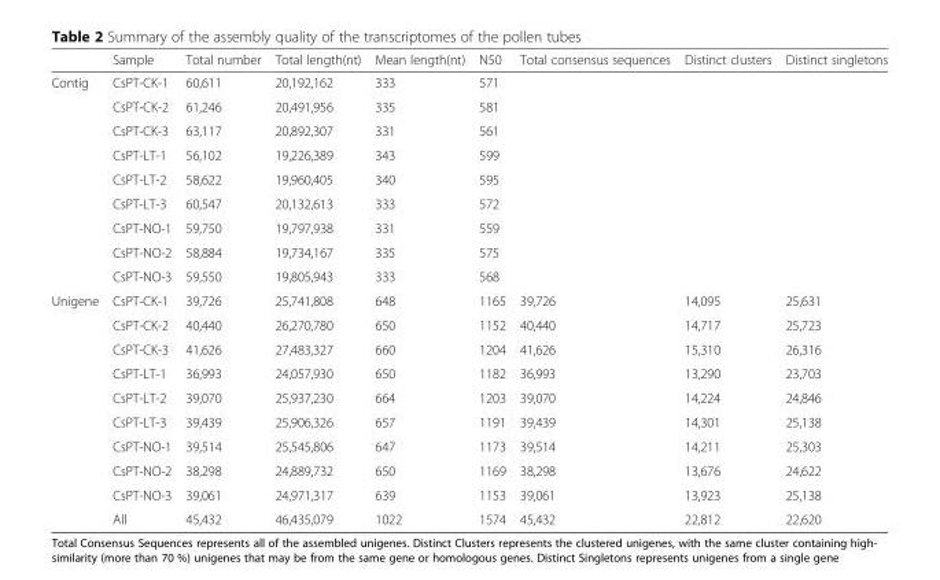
<table><thead><tr><td></td><td>Sample</td><td>Total number</td><td>Total length(nt)</td><td>Mean length(nt)</td><td>N50</td><td>Total consensus sequences</td><td>Distinct clusters</td><td>Distinct singletons</td></tr></thead><tbody><tr><td rowspan="9">Contig</td><td>CsPT-CK-1</td><td>60,611</td><td>20,192,162</td><td>333</td><td>571</td><td></td><td></td><td></td></tr><tr><td>CsPT-CK-2</td><td>61,246</td><td>20,491,956</td><td>335</td><td>581</td><td></td><td></td><td></td></tr><tr><td>CsPT-CK-3</td><td>63,117</td><td>20,892,307</td><td>331</td><td>561</td><td></td><td></td><td></td></tr><tr><td>CsPT-LT-1</td><td>56,102</td><td>19,226,389</td><td>343</td><td>599</td><td></td><td></td><td></td></tr><tr><td>CsPT-LT-2</td><td>58,622</td><td>19,960,405</td><td>340</td><td>595</td><td></td><td></td><td></td></tr><tr><td>CsPT-LT-3</td><td>60,547</td><td>20,132,613</td><td>333</td><td>572</td><td></td><td></td><td></td></tr><tr><td>CsPT-NO-1</td><td>59,750</td><td>19,797,938</td><td>331</td><td>559</td><td></td><td></td><td></td></tr><tr><td>CsPT-NO-2</td><td>58,884</td><td>19,734,167</td><td>335</td><td>575</td><td></td><td></td><td></td></tr><tr><td>CsPT-NO-3</td><td>59,550</td><td>19,805,943</td><td>333</td><td>568</td><td></td><td></td><td></td></tr><tr><td rowspan="10">Unigene</td><td>CsPT-CK-1</td><td>39,726</td><td>25,741,808</td><td>648</td><td>1165</td><td>39,726</td><td>14,095</td><td>25,631</td></tr><tr><td>CsPT-CK-2</td><td>40,440</td><td>26,270,780</td><td>650</td><td>1152</td><td>40,440</td><td>14,717</td><td>25,723</td></tr><tr><td>CsPT-CK-3</td><td>41,626</td><td>27,483,327</td><td>660</td><td>1204</td><td>41,626</td><td>15,310</td><td>26,316</td></tr><tr><td>CsPT-LT-1</td><td>36,993</td><td>24,057,930</td><td>650</td><td>1182</td><td>36,993</td><td>13,290</td><td>23,703</td></tr><tr><td>CsPT-LT-2</td><td>39,070</td><td>25,937,230</td><td>664</td><td>1203</td><td>39,070</td><td>14,224</td><td>24,846</td></tr><tr><td>CsPT-LT-3</td><td>39,439</td><td>25,906,326</td><td>657</td><td>1191</td><td>39,439</td><td>14,301</td><td>25,138</td></tr><tr><td>CsPT-NO-1</td><td>39,514</td><td>25,545,806</td><td>647</td><td>1173</td><td>39,514</td><td>14,211</td><td>25,303</td></tr><tr><td>CsPT-NO-2</td><td>38,298</td><td>24,889,732</td><td>650</td><td>1169</td><td>38,298</td><td>13,676</td><td>24,622</td></tr><tr><td>CsPT-NO-3</td><td>39,061</td><td>24,971,317</td><td>639</td><td>1153</td><td>39,061</td><td>13,923</td><td>25,138</td></tr><tr><td>All</td><td>45,432</td><td>46,435,079</td><td>1022</td><td>1574</td><td>45,432</td><td>22,812</td><td>22,620</td></tr></tbody></table>